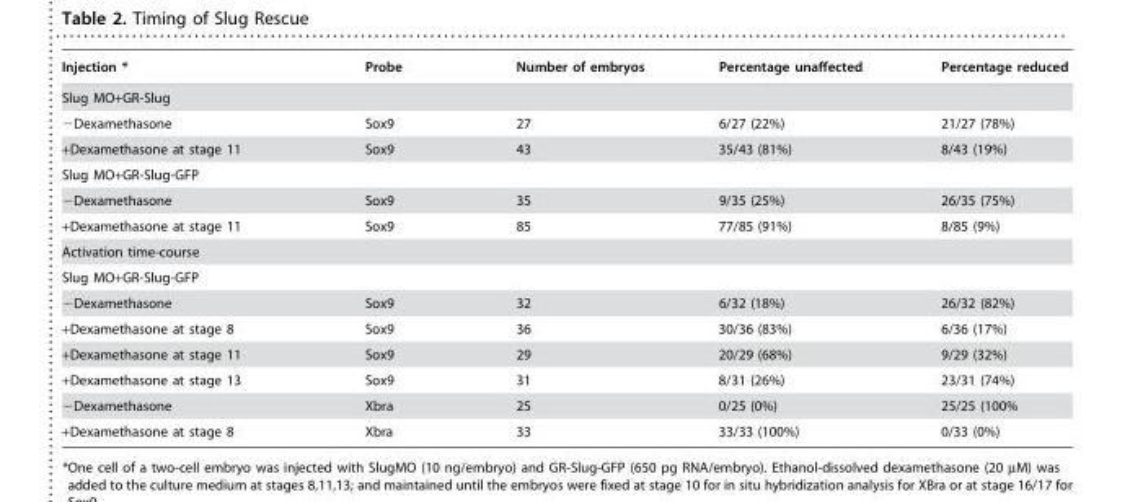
<table><thead><tr><td>Injection *</td><td>Probe</td><td>Number of embryos</td><td>Percentage unaffected</td><td>Percentage reduced</td></tr></thead><tbody><tr><td colspan="5">Slug MO+GR-Slug</td></tr><tr><td>−Dexamethasone</td><td>Sox9</td><td>27</td><td>6/27 (22%)</td><td>21/27 (78%)</td></tr><tr><td>+Dexamethasone at stage 11</td><td>Sox9</td><td>43</td><td>35/43 (81%)</td><td>8/43 (19%)</td></tr><tr><td colspan="5">Slug MO+GR-Slug-GFP</td></tr><tr><td>−Dexamethasone</td><td>Sox9</td><td>35</td><td>9/35 (25%)</td><td>26/35 (75%)</td></tr><tr><td>+Dexamethasone at stage 11</td><td>Sox9</td><td>85</td><td>77/85 (91%)</td><td>8/85 (9%)</td></tr><tr><td colspan="5">Activation time-course</td></tr><tr><td colspan="5">Slug MO+GR-Slug-GFP</td></tr><tr><td>−Dexamethasone</td><td>Sox9</td><td>32</td><td>6/32 (18%)</td><td>26/32 (82%)</td></tr><tr><td>+Dexamethasone at stage 8</td><td>Sox9</td><td>36</td><td>30/36 (83%)</td><td>6/36 (17%)</td></tr><tr><td>+Dexamethasone at stage 11</td><td>Sox9</td><td>29</td><td>20/29 (68%)</td><td>9/29 (32%)</td></tr><tr><td>+Dexamethasone at stage 13</td><td>Sox9</td><td>31</td><td>8/31 (26%)</td><td>23/31 (74%)</td></tr><tr><td>−Dexamethasone</td><td>Xbra</td><td>25</td><td>0/25 (0%)</td><td>25/25 (100%</td></tr><tr><td>+Dexamethasone at stage 8</td><td>Xbra</td><td>33</td><td>33/33 (100%)</td><td>0/33 (0%)</td></tr></tbody></table>